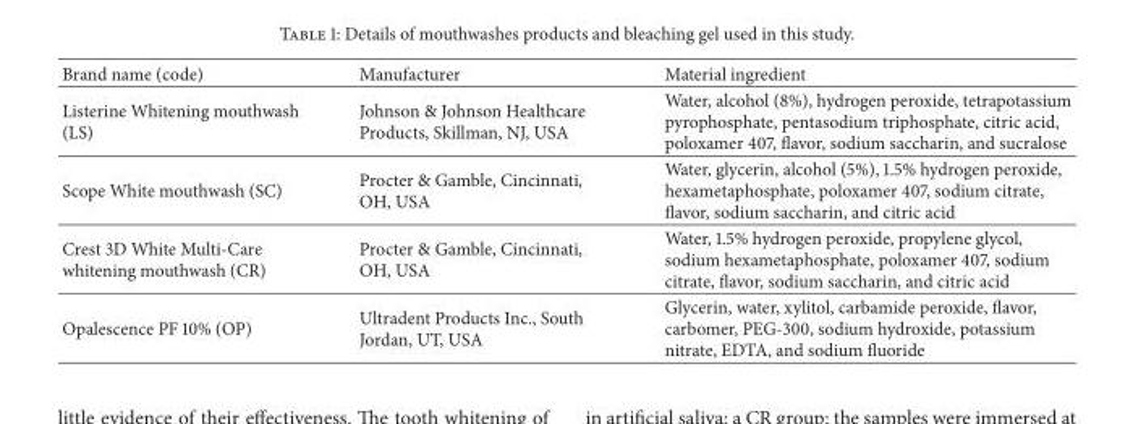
<table><thead><tr><td>Brand name (code)</td><td>Manufacturer</td><td>Material ingredient</td></tr></thead><tbody><tr><td>Listerine Whitening mouthwash (LS)</td><td>Johnson &amp; Johnson Healthcare Products, Skillman, NJ, USA</td><td>Water, alcohol (8%), hydrogen peroxide, tetrapotassium pyrophosphate, pentasodium triphosphate, citric acid, poloxamer 407, flavor, sodium saccharin, and sucralose</td></tr><tr><td>Scope White mouthwash (SC)</td><td>Procter &amp; Gamble, Cincinnati, OH, USA</td><td>Water, glycerin, alcohol (5%), 1.5% hydrogen peroxide, hexametaphosphate, poloxamer 407, sodium citrate, flavor, sodium saccharin, and citric acid</td></tr><tr><td>Crest 3D White Multi-Care whitening mouthwash (CR)</td><td>Procter &amp; Gamble, Cincinnati, OH, USA</td><td>Water, 1.5% hydrogen peroxide, propylene glycol, sodium hexametaphosphate, poloxamer 407, sodium citrate, flavor, sodium saccharin, and citric acid</td></tr><tr><td>Opalescence PF 10% (OP)</td><td>Ultradent Products Inc., South Jordan, UT, USA</td><td>Glycerin, water, xylitol, carbamide peroxide, flavor, carbomer, PEG-300, sodium hydroxide, potassium nitrate, EDTA, and sodium fluoride</td></tr></tbody></table>